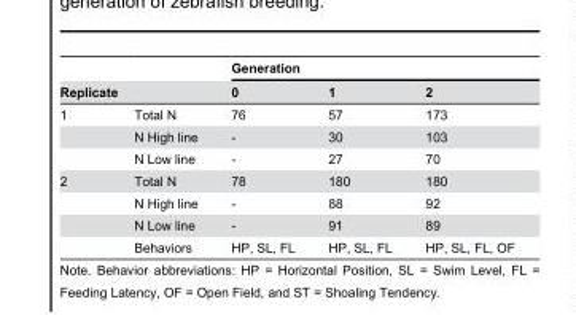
<table><thead><tr><td rowspan="2">Replicate</td><td rowspan="2"></td><td colspan="3">Generation</td></tr><tr><td>0</td><td>1</td><td>2</td></tr></thead><tbody><tr><td rowspan="3">1</td><td>Total N</td><td>76</td><td>57</td><td>173</td></tr><tr><td>N High line</td><td>-</td><td>30</td><td>103</td></tr><tr><td>N Low line</td><td>-</td><td>27</td><td>70</td></tr><tr><td rowspan="4">2</td><td>Total N</td><td>78</td><td>180</td><td>180</td></tr><tr><td>N High line</td><td>-</td><td>88</td><td>92</td></tr><tr><td>N Low line</td><td>-</td><td>91</td><td>89</td></tr><tr><td>Behaviors</td><td>HP, SL, FL</td><td>HP, SL, FL</td><td>HP, SL, FL, OF</td></tr></tbody></table>